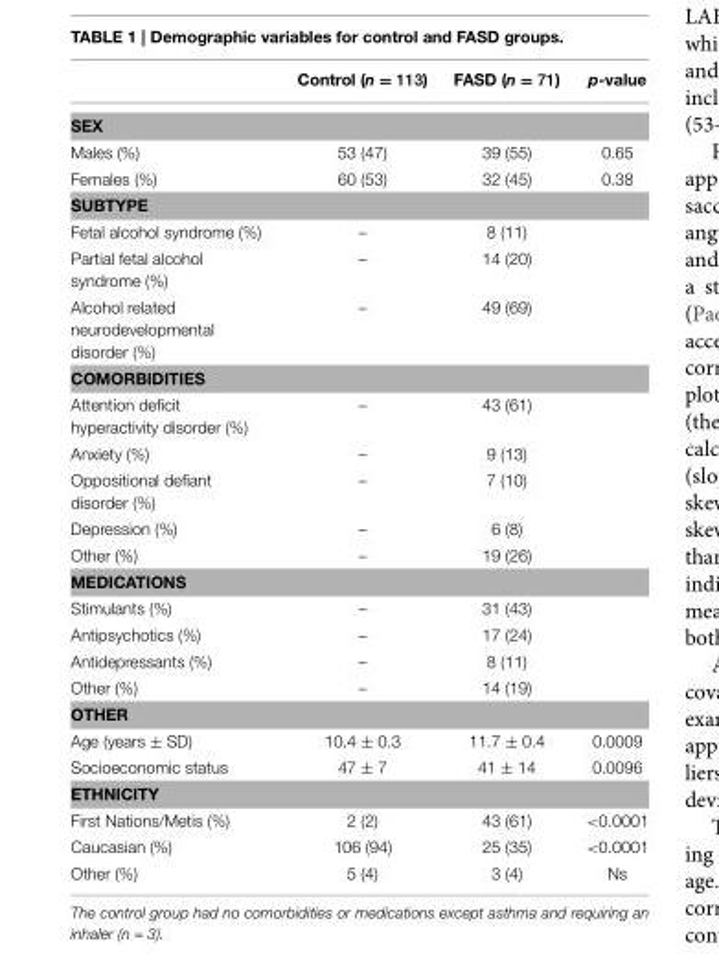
<table><thead><tr><td></td><td>Control (n = 113)</td><td>FASD (n = 71)</td><td>p-value</td></tr></thead><tbody><tr><td colspan="4">SEX</td></tr><tr><td>Males (%)</td><td>53 (47)</td><td>39 (55)</td><td>0.65</td></tr><tr><td>Females (%)</td><td>60 (53)</td><td>32 (45)</td><td>0.38</td></tr><tr><td colspan="4">SUBTYPE</td></tr><tr><td>Fetal alcohol syndrome (%)</td><td>–</td><td>8 (11)</td><td></td></tr><tr><td>Partial fetal alcohol syndrome (%)</td><td>–</td><td>14 (20)</td><td></td></tr><tr><td>Alcohol related neurodevelopmental disorder (%)</td><td>–</td><td>49 (69)</td><td></td></tr><tr><td colspan="4">COMORBIDITIES</td></tr><tr><td>Attention deficit hyperactivity disorder (%)</td><td>–</td><td>43 (61)</td><td></td></tr><tr><td>Anxiety (%)</td><td>–</td><td>9 (13)</td><td></td></tr><tr><td>Oppositional defiant disorder (%)</td><td>–</td><td>7 (10)</td><td></td></tr><tr><td>Depression (%)</td><td>–</td><td>6 (8)</td><td></td></tr><tr><td>Other (%)</td><td>–</td><td>19 (26)</td><td></td></tr><tr><td colspan="4">MEDICATIONS</td></tr><tr><td>Stimulants (%)</td><td>–</td><td>31 (43)</td><td></td></tr><tr><td>Antipsychotics (%)</td><td>–</td><td>17 (24)</td><td></td></tr><tr><td>Antidepressants (%)</td><td>–</td><td>8 (11)</td><td></td></tr><tr><td>Other (%)</td><td>–</td><td>14 (19)</td><td></td></tr><tr><td colspan="4">OTHER</td></tr><tr><td>Age (years ± SD)</td><td>10.4 ± 0.3</td><td>11.7 ± 0.4</td><td>0.0009</td></tr><tr><td>Socioeconomic status</td><td>47 ± 7</td><td>41 ± 14</td><td>0.0096</td></tr><tr><td colspan="4">ETHNICITY</td></tr><tr><td>First Nations/Metis (%)</td><td>2 (2)</td><td>43 (61)</td><td>&lt;0.0001</td></tr><tr><td>Caucasian (%)</td><td>106 (94)</td><td>25 (35)</td><td>&lt;0.0001</td></tr><tr><td>Other (%)</td><td>5 (4)</td><td>3 (4)</td><td>Ns</td></tr></tbody></table>